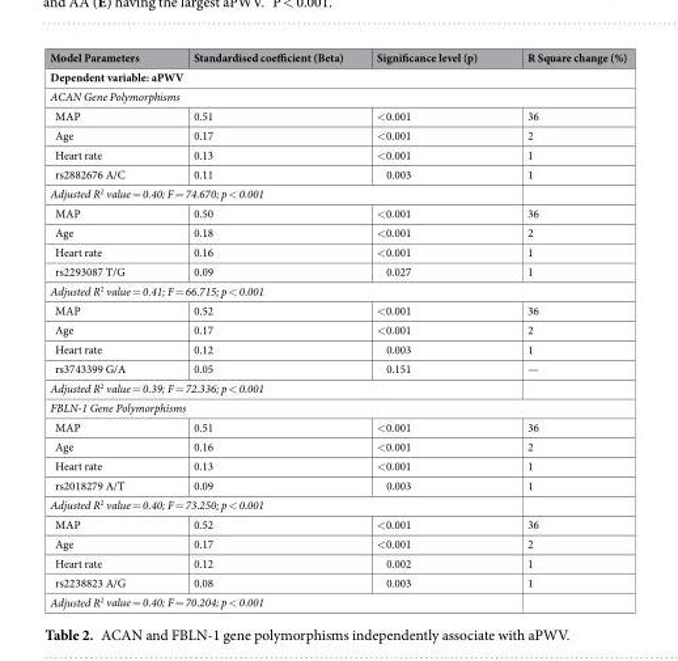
<table><thead><tr><td>Model Parameters</td><td>Standardised coefficient (Beta)</td><td>Significance level (p)</td><td>R Square change (%)</td></tr></thead><tbody><tr><td colspan="4">Dependent variable: aPWV</td></tr><tr><td colspan="4">ACAN Gene Polymorphisms</td></tr><tr><td>MAP</td><td>0.51</td><td>&lt;0.001</td><td>36</td></tr><tr><td>Age</td><td>0.17</td><td>&lt;0.001</td><td>2</td></tr><tr><td>Heart rate</td><td>0.13</td><td>&lt;0.001</td><td>1</td></tr><tr><td>rs2882676 A/C</td><td>0.11</td><td>0.003</td><td>1</td></tr><tr><td colspan="4">Adjusted R<sup>2</sup> value = 0.40; F = 74.670; p &lt; 0.001</td></tr><tr><td>MAP</td><td>0.50</td><td>&lt;0.001</td><td>36</td></tr><tr><td>Age</td><td>0.18</td><td>&lt;0.001</td><td>2</td></tr><tr><td>Heart rate</td><td>0.16</td><td>&lt;0.001</td><td>1</td></tr><tr><td>rs2293087 T/G</td><td>0.09</td><td>0.027</td><td>1</td></tr><tr><td colspan="4">Adjusted R<sup>2</sup> value = 0.41; F = 66.715; p &lt; 0.001</td></tr><tr><td>MAP</td><td>0.52</td><td>&lt;0.001</td><td>36</td></tr><tr><td>Age</td><td>0.17</td><td>&lt;0.001</td><td>2</td></tr><tr><td>Heart rate</td><td>0.12</td><td>0.003</td><td>1</td></tr><tr><td>rs3743399 G/A</td><td>0.05</td><td>0.151</td><td>—</td></tr><tr><td colspan="4">Adjusted R<sup>2</sup> value = 0.39; F = 72.336; p &lt; 0.001</td></tr><tr><td colspan="4">FBLN-1 Gene Polymorphisms</td></tr><tr><td>MAP</td><td>0.51</td><td>&lt;0.001</td><td>36</td></tr><tr><td>Age</td><td>0.16</td><td>&lt;0.001</td><td>2</td></tr><tr><td>Heart rate</td><td>0.13</td><td>&lt;0.001</td><td>1</td></tr><tr><td>rs2018279 A/T</td><td>0.09</td><td>0.003</td><td>1</td></tr><tr><td colspan="4">Adjusted R<sup>2</sup> value = 0.40; F = 73.250; p &lt; 0.001</td></tr><tr><td>MAP</td><td>0.52</td><td>&lt;0.001</td><td>36</td></tr><tr><td>Age</td><td>0.17</td><td>&lt;0.001</td><td>2</td></tr><tr><td>Heart rate</td><td>0.12</td><td>0.002</td><td>1</td></tr><tr><td>rs2238823 A/G</td><td>0.08</td><td>0.003</td><td>1</td></tr><tr><td colspan="3">Adjusted R<sup>2</sup> value = 0.40; F = 70.204; p &lt; 0.001</td><td></td></tr></tbody></table>